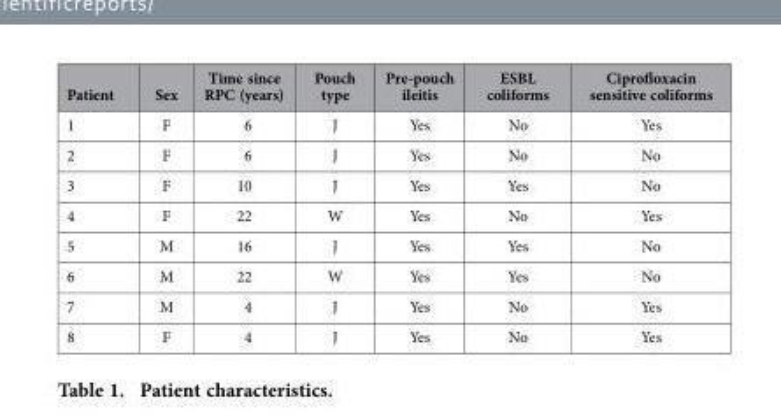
<table><thead><tr><td>Patient</td><td>Sex</td><td>Time since RPC (years)</td><td>Pouch type</td><td>Pre-pouch ileitis</td><td>ESBL coliforms</td><td>Ciprofloxacin sensitive coliforms</td></tr></thead><tbody><tr><td>1</td><td>F</td><td>6</td><td>J</td><td>Yes</td><td>No</td><td>Yes</td></tr><tr><td>2</td><td>F</td><td>6</td><td>J</td><td>Yes</td><td>No</td><td>No</td></tr><tr><td>3</td><td>F</td><td>10</td><td>J</td><td>Yes</td><td>Yes</td><td>No</td></tr><tr><td>4</td><td>F</td><td>22</td><td>W</td><td>Yes</td><td>No</td><td>Yes</td></tr><tr><td>5</td><td>M</td><td>16</td><td>J</td><td>Yes</td><td>Yes</td><td>No</td></tr><tr><td>6</td><td>M</td><td>22</td><td>W</td><td>Yes</td><td>Yes</td><td>No</td></tr><tr><td>7</td><td>M</td><td>4</td><td>J</td><td>Yes</td><td>No</td><td>Yes</td></tr><tr><td>8</td><td>F</td><td>4</td><td>J</td><td>Yes</td><td>No</td><td>Yes</td></tr></tbody></table>